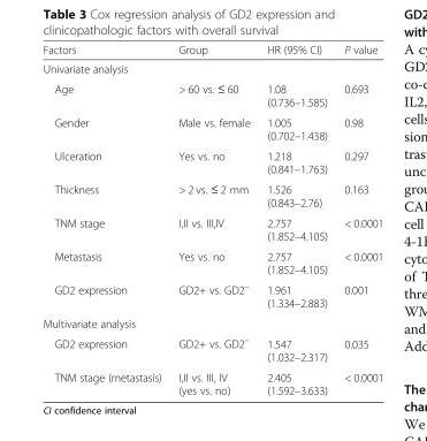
<table><thead><tr><td>Factors</td><td>Group</td><td>HR (95% CI)</td><td>P value</td></tr></thead><tbody><tr><td colspan="4">Univariate analysis</td></tr><tr><td>Age</td><td>&gt; 60 vs. ≤ 60</td><td>1.08 (0.736–1.585)</td><td>0.693</td></tr><tr><td>Gender</td><td>Male vs. female</td><td>1.005 (0.702–1.438)</td><td>0.98</td></tr><tr><td>Ulceration</td><td>Yes vs. no</td><td>1.218 (0.841–1.763)</td><td>0.297</td></tr><tr><td>Thickness</td><td>&gt; 2 vs. ≤ 2 mm</td><td>1.526 (0.843–2.76)</td><td>0.163</td></tr><tr><td>TNM stage</td><td>I,II vs. III,IV</td><td>2.757 (1.852–4.105)</td><td>&lt; 0.0001</td></tr><tr><td>Metastasis</td><td>Yes vs. no</td><td>2.757 (1.852–4.105)</td><td>&lt; 0.0001</td></tr><tr><td>GD2 expression</td><td>GD2+ vs. GD2<sup>−</sup></td><td>1.961 (1.334–2.883)</td><td>0.001</td></tr><tr><td colspan="4">Multivariate analysis</td></tr><tr><td>GD2 expression</td><td>GD2+ vs. GD2<sup>−</sup></td><td>1.547 (1.032–2.317)</td><td>0.035</td></tr><tr><td>TNM stage (metastasis)</td><td>I,II vs. III, IV (yes vs. no)</td><td>2.405 (1.592–3.633)</td><td>&lt; 0.0001</td></tr></tbody></table>